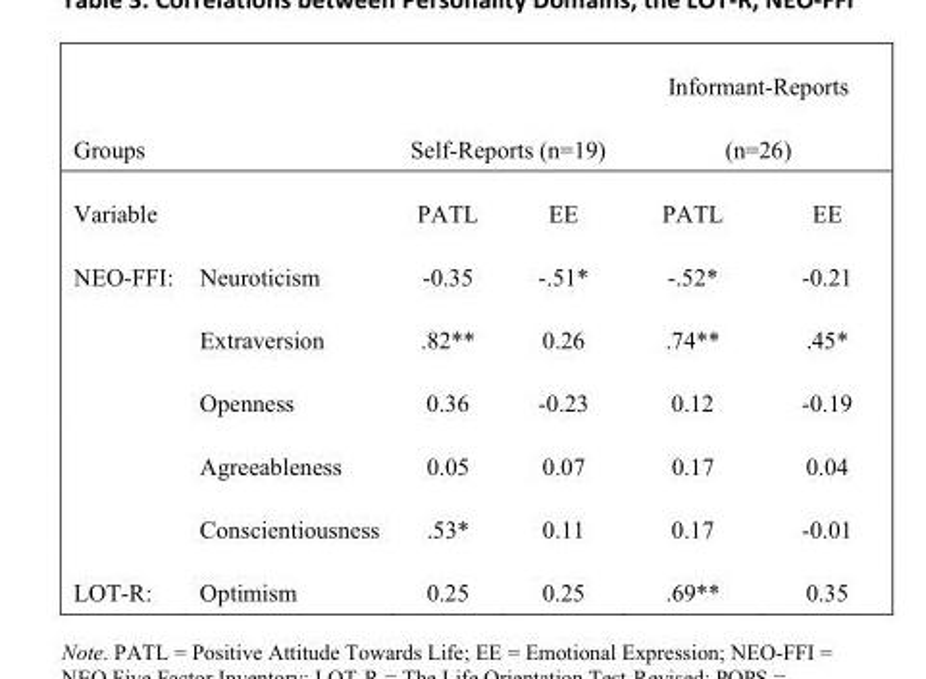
<table><thead><tr><td rowspan="2">Groups Variable</td><td rowspan="2"></td><td colspan="2">Self-Reports (n=19)</td><td colspan="2">Informant-Reports (n=26)</td></tr><tr><td>PATL</td><td>EE</td><td>PATL</td><td>EE</td></tr></thead><tbody><tr><td rowspan="5">NEO-FFI:</td><td>Neuroticism</td><td>-0.35</td><td>-.51*</td><td>-.52*</td><td>-0.21</td></tr><tr><td>Extraversion</td><td>.82**</td><td>0.26</td><td>.74**</td><td>.45*</td></tr><tr><td>Openness</td><td>0.36</td><td>-0.23</td><td>0.12</td><td>-0.19</td></tr><tr><td>Agreeableness</td><td>0.05</td><td>0.07</td><td>0.17</td><td>0.04</td></tr><tr><td>Conscientiousness</td><td>.53*</td><td>0.11</td><td>0.17</td><td>-0.01</td></tr><tr><td>LOT-R:</td><td>Optimism</td><td>0.25</td><td>0.25</td><td>.69**</td><td>0.35</td></tr></tbody></table>